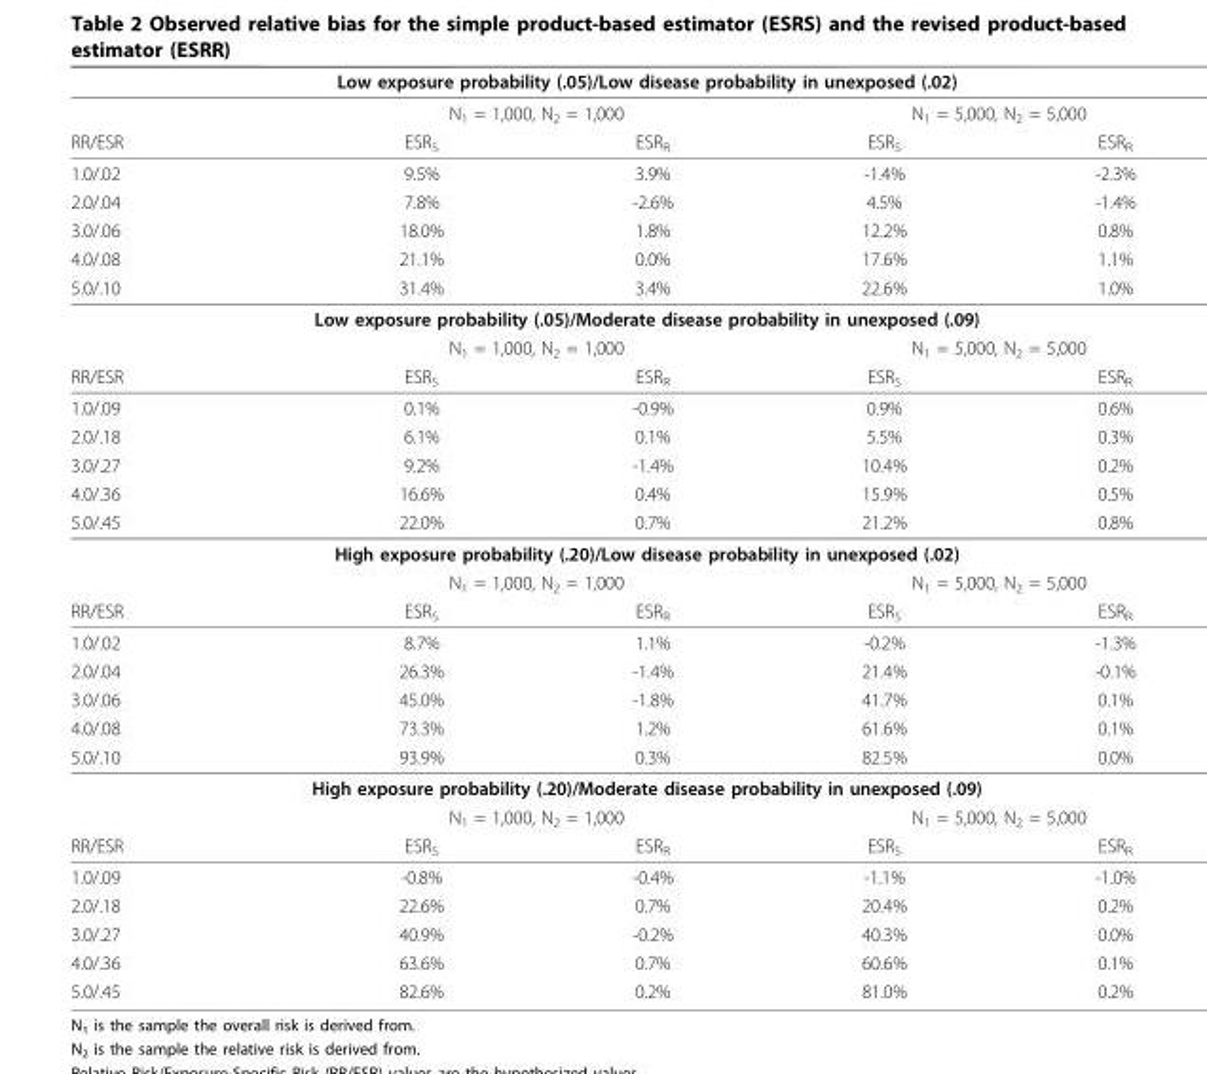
<table><thead><tr><td colspan="5">Low exposure probability (.05)/Low disease probability in unexposed (.02)</td></tr><tr><td rowspan="2">RR/ESR</td><td colspan="2">N<sub>1</sub> = 1,000, N<sub>2</sub> = 1,000</td><td colspan="2">N<sub>1</sub> = 5,000, N<sub>2</sub> = 5,000</td></tr><tr><td>ESR<sub>S</sub></td><td>ESR<sub>R</sub></td><td>ESR<sub>S</sub></td><td>ESR<sub>R</sub></td></tr></thead><tbody><tr><td>1.0/.02</td><td>9.5%</td><td>3.9%</td><td>-1.4%</td><td>-2.3%</td></tr><tr><td>2.0/.04</td><td>7.8%</td><td>-2.6%</td><td>4.5%</td><td>-1.4%</td></tr><tr><td>3.0/.06</td><td>18.0%</td><td>1.8%</td><td>12.2%</td><td>0.8%</td></tr><tr><td>4.0/.08</td><td>21.1%</td><td>0.0%</td><td>17.6%</td><td>1.1%</td></tr><tr><td>5.0/.10</td><td>31.4%</td><td>3.4%</td><td>22.6%</td><td>1.0%</td></tr><tr><td colspan="5">Low exposure probability (.05)/Moderate disease probability in unexposed (.09)</td></tr><tr><td></td><td colspan="2">N<sub>1</sub> = 1,000, N<sub>2</sub> = 1,000</td><td colspan="2">N<sub>1</sub> = 5,000, N<sub>2</sub> = 5,000</td></tr><tr><td>RR/ESR</td><td>ESR<sub>S</sub></td><td>ESR<sub>R</sub></td><td>ESR<sub>S</sub></td><td>ESR<sub>R</sub></td></tr><tr><td>1.0/.09</td><td>0.1%</td><td>-0.9%</td><td>0.9%</td><td>0.6%</td></tr><tr><td>2.0/.18</td><td>6.1%</td><td>0.1%</td><td>5.5%</td><td>0.3%</td></tr><tr><td>3.0/.27</td><td>9.2%</td><td>-1.4%</td><td>10.4%</td><td>0.2%</td></tr><tr><td>4.0/.36</td><td>16.6%</td><td>0.4%</td><td>15.9%</td><td>0.5%</td></tr><tr><td>5.0/.45</td><td>22.0%</td><td>0.7%</td><td>21.2%</td><td>0.8%</td></tr><tr><td colspan="5">High exposure probability (.20)/Low disease probability in unexposed (.02)</td></tr><tr><td></td><td colspan="2">N<sub>1</sub> = 1,000, N<sub>2</sub> = 1,000</td><td colspan="2">N<sub>1</sub> = 5,000, N<sub>2</sub> = 5,000</td></tr><tr><td>RR/ESR</td><td>ESR<sub>S</sub></td><td>ESR<sub>R</sub></td><td>ESR<sub>S</sub></td><td>ESR<sub>R</sub></td></tr><tr><td>1.0/.02</td><td>8.7%</td><td>1.1%</td><td>-0.2%</td><td>-1.3%</td></tr><tr><td>2.0/.04</td><td>26.3%</td><td>-1.4%</td><td>21.4%</td><td>-0.1%</td></tr><tr><td>3.0/.06</td><td>45.0%</td><td>-1.8%</td><td>41.7%</td><td>0.1%</td></tr><tr><td>4.0/.08</td><td>73.3%</td><td>1.2%</td><td>61.6%</td><td>0.1%</td></tr><tr><td>5.0/.10</td><td>93.9%</td><td>0.3%</td><td>82.5%</td><td>0.0%</td></tr><tr><td colspan="5">High exposure probability (.20)/Moderate disease probability in unexposed (.09)</td></tr><tr><td></td><td colspan="2">N<sub>1</sub> = 1,000, N<sub>2</sub> = 1,000</td><td colspan="2">N<sub>1</sub> = 5,000, N<sub>2</sub> = 5,000</td></tr><tr><td>RR/ESR</td><td>ESR<sub>S</sub></td><td>ESR<sub>R</sub></td><td>ESR<sub>S</sub></td><td>ESR<sub>R</sub></td></tr><tr><td>1.0/.09</td><td>-0.8%</td><td>-0.4%</td><td>-1.1%</td><td>-1.0%</td></tr><tr><td>2.0/.18</td><td>22.6%</td><td>0.7%</td><td>20.4%</td><td>0.2%</td></tr><tr><td>3.0/.27</td><td>40.9%</td><td>-0.2%</td><td>40.3%</td><td>0.0%</td></tr><tr><td>4.0/.36</td><td>63.6%</td><td>0.7%</td><td>60.6%</td><td>0.1%</td></tr><tr><td>5.0/.45</td><td>82.6%</td><td>0.2%</td><td>81.0%</td><td>0.2%</td></tr></tbody></table>